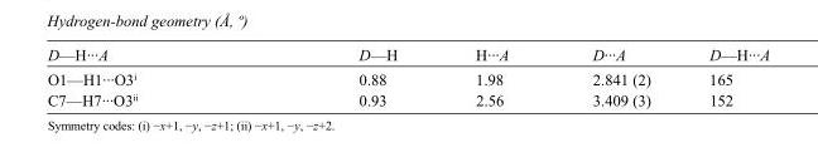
<table><tbody><tr><td>D—H···A</td><td>D—H</td><td>H···A</td><td>D···A</td><td>D—H···A</td></tr><tr><td>O1—H1···O3<sup>i</sup></td><td>0.88</td><td>1.98</td><td>2.841 (2)</td><td>165</td></tr><tr><td>C7—H7···O3<sup>ii</sup></td><td>0.93</td><td>2.56</td><td>3.409 (3)</td><td>152</td></tr></tbody></table>